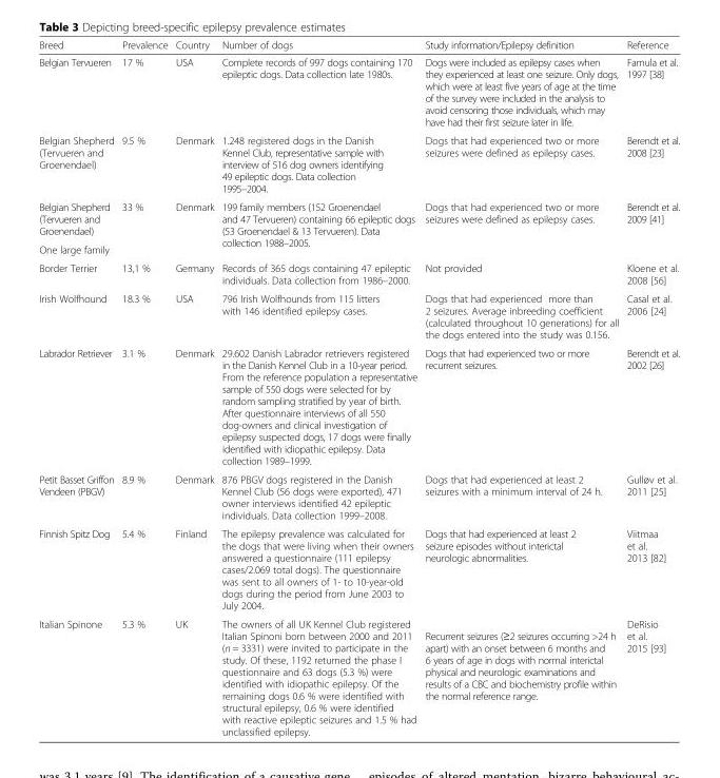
<table><thead><tr><td>Breed</td><td>Prevalence</td><td>Country</td><td>Number of dogs</td><td>Study information/Epilepsy definition</td><td>Reference</td></tr></thead><tbody><tr><td>Belgian Tervueren</td><td>17 %</td><td>USA</td><td>Complete records of 997 dogs containing 170 epileptic dogs. Data collection late 1980s.</td><td>Dogs were included as epilepsy cases when they experienced at least one seizure. Only dogs, which were at least five years of age at the time of the survey were included in the analysis to avoid censoring those individuals, which may have had their first seizure later in life.</td><td>Famula et al. 1997 [38]</td></tr><tr><td>Belgian Shepherd (Tervueren and Groenendael)</td><td>9.5 %</td><td>Denmark</td><td>1.248 registered dogs in the Danish Kennel Club, representative sample with interview of 516 dog owners identifying 49 epileptic dogs. Data collection 1995–2004.</td><td>Dogs that had experienced two or more seizures were defined as epilepsy cases.</td><td>Berendt et al. 2008 [23]</td></tr><tr><td>Belgian Shepherd (Tervueren and Groenendael)</td><td rowspan="2">33 %</td><td rowspan="2">Denmark</td><td rowspan="2">199 family members (152 Groenendael and 47 Tervueren) containing 66 epileptic dogs (53 Groenendael &amp; 13 Tervueren). Data collection 1988–2005.</td><td rowspan="2">Dogs that had experienced two or more seizures were defined as epilepsy cases.</td><td rowspan="2">Berendt et al. 2009 [41]</td></tr><tr><td>One large family</td></tr><tr><td>Border Terrier</td><td>13,1 %</td><td>Germany</td><td>Records of 365 dogs containing 47 epileptic individuals. Data collection from 1986–2000.</td><td>Not provided</td><td>Kloene et al. 2008 [56]</td></tr><tr><td>Irish Wolfhound</td><td>18.3 %</td><td>USA</td><td>796 Irish Wolfhounds from 115 litters with 146 identified epilepsy cases.</td><td>Dogs that had experienced more than 2 seizures. Average inbreeding coefficient (calculated throughout 10 generations) for all the dogs entered into the study was 0.156.</td><td>Casal et al. 2006 [24]</td></tr><tr><td>Labrador Retriever</td><td>3.1 %</td><td>Denmark</td><td>29.602 Danish Labrador retrievers registered in the Danish Kennel Club in a 10-year period. From the reference population a representative sample of 550 dogs were selected for by random sampling stratified by year of birth. After questionnaire interviews of all 550 dog-owners and clinical investigation of epilepsy suspected dogs, 17 dogs were finally identified with idiopathic epilepsy. Data collection 1989–1999.</td><td>Dogs that had experienced two or more recurrent seizures.</td><td>Berendt et al. 2002 [26]</td></tr><tr><td>Petit Basset Griffon Vendeen (PBGV)</td><td>8.9 %</td><td>Denmark</td><td>876 PBGV dogs registered in the Danish Kennel Club (56 dogs were exported), 471 owner interviews identified 42 epileptic individuals. Data collection 1999–2008.</td><td>Dogs that had experienced at least 2 seizures with a minimum interval of 24 h.</td><td>Gulløv et al. 2011 [25]</td></tr><tr><td>Finnish Spitz Dog</td><td>5.4 %</td><td>Finland</td><td>The epilepsy prevalence was calculated for the dogs that were living when their owners answered a questionnaire (111 epilepsy cases/2.069 total dogs). The questionnaire was sent to all owners of 1- to 10-year-old dogs during the period from June 2003 to July 2004.</td><td>Dogs that had experienced at least 2 seizure episodes without interictal neurologic abnormalities.</td><td>Viitmaa et al. 2013 [82]</td></tr><tr><td>Italian Spinone</td><td>5.3 %</td><td>UK</td><td>The owners of all UK Kennel Club registered Italian Spinoni born between 2000 and 2011 (n = 3331) were invited to participate in the study. Of these, 1192 returned the phase I questionnaire and 63 dogs (5.3 %) were identified with idiopathic epilepsy. Of the remaining dogs 0.6 % were identified with structural epilepsy, 0.6 % were identified with reactive epileptic seizures and 1.5 % had unclassified epilepsy.</td><td>Recurrent seizures (≥2 seizures occurring &gt;24 h apart) with an onset between 6 months and 6 years of age in dogs with normal interictal physical and neurologic examinations and results of a CBC and biochemistry profile within the normal reference range.</td><td>DeRisio et al. 2015 [93]</td></tr></tbody></table>